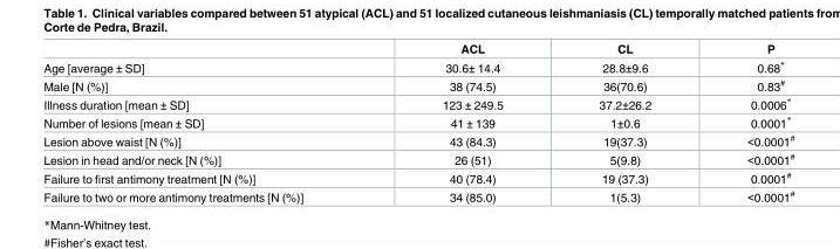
<table><thead><tr><td></td><td>ACL</td><td>CL</td><td>P</td></tr></thead><tbody><tr><td>Age [average ± SD]</td><td>30.6± 14.4</td><td>28.8±9.6</td><td>0.68*</td></tr><tr><td>Male [N (%)]</td><td>38 (74.5)</td><td>36(70.6)</td><td>0.83<sup>#</sup></td></tr><tr><td>Illness duration [mean ± SD]</td><td>123 ± 249.5</td><td>37.2±26.2</td><td>0.0006*</td></tr><tr><td>Number of lesions [mean ± SD]</td><td>41 ± 139</td><td>1±0.6</td><td>0.0001*</td></tr><tr><td>Lesion above waist [N (%)]</td><td>43 (84.3)</td><td>19(37.3)</td><td>&lt;0.0001<sup>#</sup></td></tr><tr><td>Lesion in head and/or neck [N (%)]</td><td>26 (51)</td><td>5(9.8)</td><td>&lt;0.0001<sup>#</sup></td></tr><tr><td>Failure to first antimony treatment [N (%)]</td><td>40 (78.4)</td><td>19 (37.3)</td><td>0.0001<sup>#</sup></td></tr><tr><td>Failure to two or more antimony treatments [N (%)]</td><td>34 (85.0)</td><td>1(5.3)</td><td>&lt;0.0001<sup>#</sup></td></tr></tbody></table>